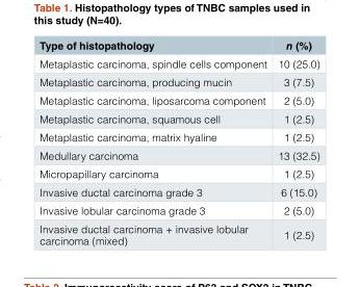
<table><thead><tr><td>Type of histopathology</td><td>n (%)</td></tr></thead><tbody><tr><td>Metaplastic carcinoma, spindle cells component</td><td>10 (25.0)</td></tr><tr><td>Metaplastic carcinoma, producing mucin</td><td>3 (7.5)</td></tr><tr><td>Metaplastic carcinoma, liposarcoma component</td><td>2 (5.0)</td></tr><tr><td>Metaplastic carcinoma, squamous cell</td><td>1 (2.5)</td></tr><tr><td>Metaplastic carcinoma, matrix hyaline</td><td>1 (2.5)</td></tr><tr><td>Medullary carcinoma</td><td>13 (32.5)</td></tr><tr><td>Micropapillary carcinoma</td><td>1 (2.5)</td></tr><tr><td>Invasive ductal carcinoma grade 3</td><td>6 (15.0)</td></tr><tr><td>Invasive lobular carcinoma grade 3</td><td>2 (5.0)</td></tr><tr><td>Invasive ductal carcinoma + invasive lobular carcinoma (mixed)</td><td>1 (2.5)</td></tr></tbody></table>